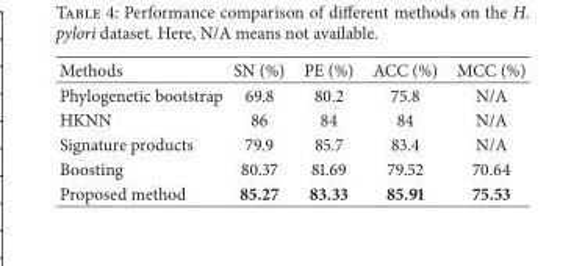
<table><thead><tr><td>Methods</td><td>SN (%)</td><td>PE (%)</td><td>ACC (%)</td><td>MCC (%)</td></tr></thead><tbody><tr><td>Phylogenetic bootstrap</td><td>69.8</td><td>80.2</td><td>75.8</td><td>N/A</td></tr><tr><td>HKNN</td><td>86</td><td>84</td><td>84</td><td>N/A</td></tr><tr><td>Signature products</td><td>79.9</td><td>85.7</td><td>83.4</td><td>N/A</td></tr><tr><td>Boosting</td><td>80.37</td><td>81.69</td><td>79.52</td><td>70.64</td></tr><tr><td>Proposed method</td><td>85.27</td><td>83.33</td><td>85.91</td><td>75.53</td></tr></tbody></table>